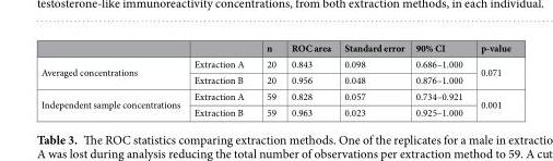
<table><thead><tr><td></td><td></td><td>n</td><td>ROC area</td><td>Standard error</td><td>90% CI</td><td>p-value</td></tr></thead><tbody><tr><td rowspan="2">Averaged concentrations</td><td>Extraction A</td><td>20</td><td>0.843</td><td>0.098</td><td>0.686–1.000</td><td rowspan="2">0.071</td></tr><tr><td>Extraction B</td><td>20</td><td>0.956</td><td>0.048</td><td>0.876–1.000</td></tr><tr><td rowspan="2">Independent sample concentrations</td><td>Extraction A</td><td>59</td><td>0.828</td><td>0.057</td><td>0.734–0.921</td><td rowspan="2">0.001</td></tr><tr><td>Extraction B</td><td>59</td><td>0.963</td><td>0.023</td><td>0.925–1.000</td></tr></tbody></table>